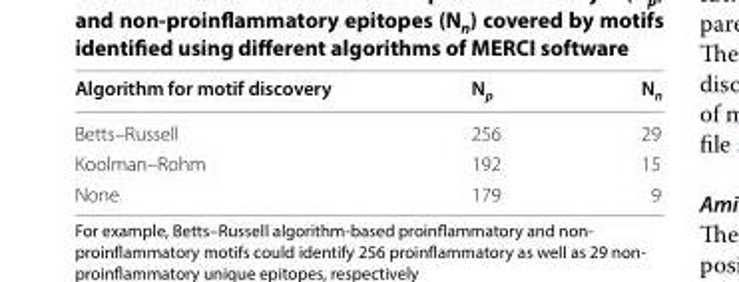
<table><thead><tr><td>Algorithm for motif discovery</td><td>N<sub>p</sub></td><td>N<sub>n</sub></td></tr></thead><tbody><tr><td>Betts–Russell</td><td>256</td><td>29</td></tr><tr><td>Koolman–Rohm</td><td>192</td><td>15</td></tr><tr><td>None</td><td>179</td><td>9</td></tr></tbody></table>